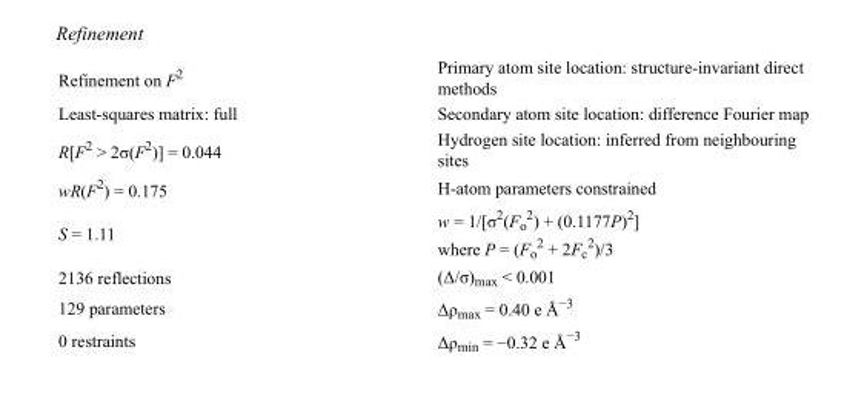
<table><tbody><tr><td>Refinement on F<sup>2</sup></td><td>Primary atom site location: structure-invariant direct methods</td></tr><tr><td>Least-squares matrix: full</td><td>Secondary atom site location: difference Fourier map</td></tr><tr><td>R[F<sup>2</sup> &gt; 2σ(F<sup>2</sup>)] = 0.044</td><td>Hydrogen site location: inferred from neighbouring sites</td></tr><tr><td>wR(F<sup>2</sup>) = 0.175</td><td>H-atom parameters constrained</td></tr><tr><td>S = 1.11</td><td>w = 1/[σ<sup>2</sup>(F<sub>o</sub> <sup>2</sup>) + (0.1177P)<sup>2</sup>] where P = (F<sub>o</sub> <sup>2</sup> + 2F<sub>c</sub> <sup>2</sup>)/3</td></tr><tr><td>2136 reflections</td><td>(Δ/σ)<sub>max</sub> &lt; 0.001</td></tr><tr><td>129 parameters</td><td>Δρ<sub>max</sub> = 0.40 e Å<sup>−3</sup></td></tr><tr><td>0 restraints</td><td>Δρ<sub>min</sub> = −0.32 e Å<sup>−3</sup></td></tr></tbody></table>